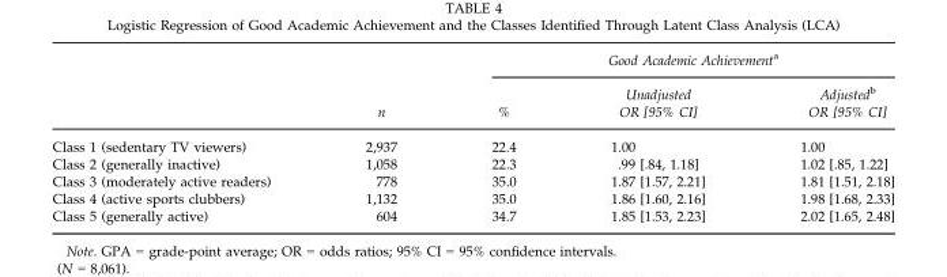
<table><thead><tr><td rowspan="2"></td><td rowspan="2">n</td><td colspan="3">Good Academic Achievement<sup>a</sup></td></tr><tr><td>%</td><td>Unadjusted OR [95% CI]</td><td>Adjusted<sup>b</sup> OR [95% CI]</td></tr></thead><tbody><tr><td>Class 1 (sedentary TV viewers)</td><td>2,937</td><td>22.4</td><td>1.00</td><td>1.00</td></tr><tr><td>Class 2 (generally inactive)</td><td>1,058</td><td>22.3</td><td>.99 [.84, 1.18]</td><td>1.02 [.85, 1.22]</td></tr><tr><td>Class 3 (moderately active readers)</td><td>778</td><td>35.0</td><td>1.87 [1.57, 2.21]</td><td>1.81 [1.51, 2.18]</td></tr><tr><td>Class 4 (active sports clubbers)</td><td>1,132</td><td>35.0</td><td>1.86 [1.60, 2.16]</td><td>1.98 [1.68, 2.33]</td></tr><tr><td>Class 5 (generally active)</td><td>604</td><td>34.7</td><td>1.85 [1.53, 2.23]</td><td>2.02 [1.65, 2.48]</td></tr></tbody></table>